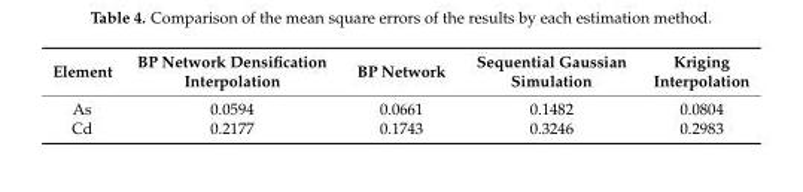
<table><thead><tr><td>Element</td><td>BP Network Densification Interpolation</td><td>BP Network</td><td>Sequential Gaussian Simulation</td><td>Kriging Interpolation</td></tr></thead><tbody><tr><td>As</td><td>0.0594</td><td>0.0661</td><td>0.1482</td><td>0.0804</td></tr><tr><td>Cd</td><td>0.2177</td><td>0.1743</td><td>0.3246</td><td>0.2983</td></tr></tbody></table>